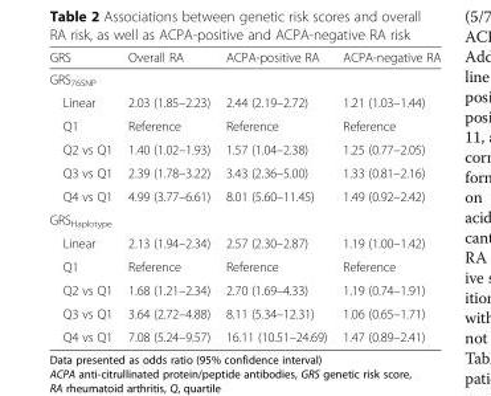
<table><thead><tr><td>GRS</td><td>Overall RA</td><td>ACPA-positive RA</td><td>ACPA-negative RA</td></tr></thead><tbody><tr><td colspan="4">GRS<sub>76SNP</sub></td></tr><tr><td>Linear</td><td>2.03 (1.85–2.23)</td><td>2.44 (2.19–2.72)</td><td>1.21 (1.03–1.44)</td></tr><tr><td>Q1</td><td>Reference</td><td>Reference</td><td>Reference</td></tr><tr><td>Q2 vs Q1</td><td>1.40 (1.02–1.93)</td><td>1.57 (1.04–2.38)</td><td>1.25 (0.77–2.05)</td></tr><tr><td>Q3 vs Q1</td><td>2.39 (1.78–3.22)</td><td>3.43 (2.36–5.00)</td><td>1.33 (0.81–2.16)</td></tr><tr><td>Q4 vs Q1</td><td>4.99 (3.77–6.61)</td><td>8.01 (5.60–11.45)</td><td>1.49 (0.92–2.42)</td></tr><tr><td colspan="4">GRS<sub>Haplotype</sub></td></tr><tr><td>Linear</td><td>2.13 (1.94–2.34)</td><td>2.57 (2.30–2.87)</td><td>1.19 (1.00–1.42)</td></tr><tr><td>Q1</td><td>Reference</td><td>Reference</td><td>Reference</td></tr><tr><td>Q2 vs Q1</td><td>1.68 (1.21–2.34)</td><td>2.70 (1.69–4.33)</td><td>1.19 (0.74–1.91)</td></tr><tr><td>Q3 vs Q1</td><td>3.64 (2.72–4.88)</td><td>8.11 (5.34–12.31)</td><td>1.06 (0.65–1.71)</td></tr><tr><td>Q4 vs Q1</td><td>7.08 (5.24–9.57)</td><td>16.11 (10.51–24.69)</td><td>1.47 (0.89–2.41)</td></tr></tbody></table>